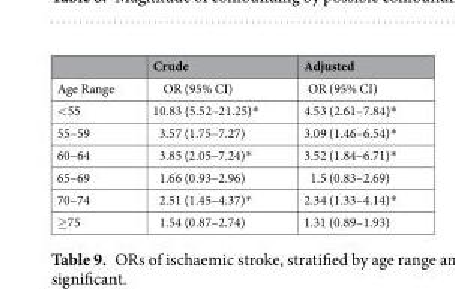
<table><thead><tr><td></td><td>Crude</td><td>Adjusted</td></tr></thead><tbody><tr><td>Age Range</td><td>OR (95% CI)</td><td>OR (95% CI)</td></tr><tr><td>&lt;55</td><td>10.83 (5.52–21.25)*</td><td>4.53 (2.61–7.84)*</td></tr><tr><td>55–59</td><td>3.57 (1.75–7.27)</td><td>3.09 (1.46–6.54)*</td></tr><tr><td>60–64</td><td>3.85 (2.05–7.24)*</td><td>3.52 (1.84–6.71)*</td></tr><tr><td>65–69</td><td>1.66 (0.93–2.96)</td><td>1.5 (0.83–2.69)</td></tr><tr><td>70–74</td><td>2.51 (1.45–4.37)*</td><td>2.34 (1.33–4.14)*</td></tr><tr><td>≥75</td><td>1.54 (0.87–2.74)</td><td>1.31 (0.89–1.93)</td></tr></tbody></table>